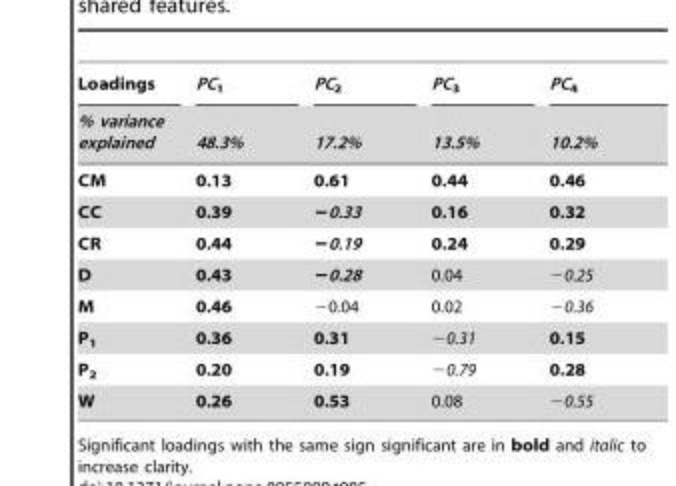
<table><thead><tr><td rowspan="2">Loadings % variance explained</td><td rowspan="2">PC<sub>1</sub> 48.3%</td><td rowspan="2">PC<sub>2</sub> 17.2%</td><td rowspan="2">PC<sub>3</sub> 13.5%</td><td rowspan="2">PC<sub>4</sub> 10.2%</td></tr><tr></tr></thead><tbody><tr><td>CM</td><td>0.13</td><td>0.61</td><td>0.44</td><td>0.46</td></tr><tr><td>CC</td><td>0.39</td><td>−0.33</td><td>0.16</td><td>0.32</td></tr><tr><td>CR</td><td>0.44</td><td>−0.19</td><td>0.24</td><td>0.29</td></tr><tr><td>D</td><td>0.43</td><td>−0.28</td><td>0.04</td><td>−0.25</td></tr><tr><td>M</td><td>0.46</td><td>−0.04</td><td>0.02</td><td>−0.36</td></tr><tr><td>P<sub>1</sub></td><td>0.36</td><td>0.31</td><td>−0.31</td><td>0.15</td></tr><tr><td>P<sub>2</sub></td><td>0.20</td><td>0.19</td><td>−0.79</td><td>0.28</td></tr><tr><td>W</td><td>0.26</td><td>0.53</td><td>0.08</td><td>−0.55</td></tr></tbody></table>